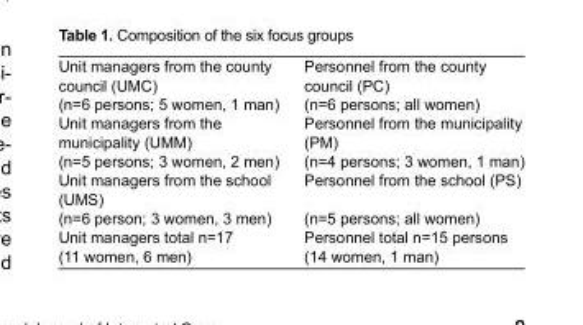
<table><tbody><tr><td>Unit managers from the county council (UMC)</td><td>Personnel from the county council (PC)</td></tr><tr><td>(n=6 persons; 5 women, 1 man)</td><td>(n=6 persons; all women)</td></tr><tr><td>Unit managers from the municipality (UMM)</td><td>Personnel from the municipality (PM)</td></tr><tr><td>(n=5 persons; 3 women, 2 men)</td><td>(n=4 persons; 3 women, 1 man)</td></tr><tr><td>Unit managers from the school (UMS)</td><td>Personnel from the school (PS)</td></tr><tr><td>(n=6 person; 3 women, 3 men)</td><td>(n=5 persons; all women)</td></tr><tr><td>Unit managers total n=17 (11 women, 6 men)</td><td>Personnel total n=15 persons (14 women, 1 man)</td></tr></tbody></table>